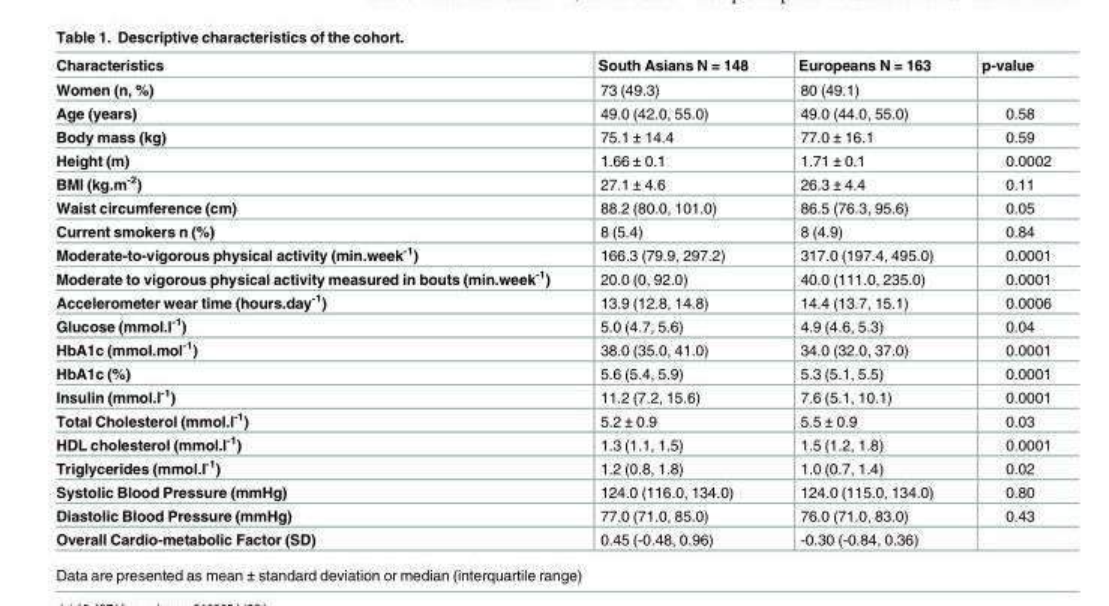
<table><thead><tr><td>Characteristics</td><td>South Asians N = 148</td><td>Europeans N = 163</td><td>p-value</td></tr></thead><tbody><tr><td>Women (n, %)</td><td>73 (49.3)</td><td>80 (49.1)</td><td></td></tr><tr><td>Age (years)</td><td>49.0 (42.0, 55.0)</td><td>49.0 (44.0, 55.0)</td><td>0.58</td></tr><tr><td>Body mass (kg)</td><td>75.1 ± 14.4</td><td>77.0 ± 16.1</td><td>0.59</td></tr><tr><td>Height (m)</td><td>1.66 ± 0.1</td><td>1.71 ± 0.1</td><td>0.0002</td></tr><tr><td>BMI (kg.m<sup>-2</sup>)</td><td>27.1 ± 4.6</td><td>26.3 ± 4.4</td><td>0.11</td></tr><tr><td>Waist circumference (cm)</td><td>88.2 (80.0, 101.0)</td><td>86.5 (76.3, 95.6)</td><td>0.05</td></tr><tr><td>Current smokers n (%)</td><td>8 (5.4)</td><td>8 (4.9)</td><td>0.84</td></tr><tr><td>Moderate-to-vigorous physical activity (min.week<sup>-1</sup>)</td><td>166.3 (79.9, 297.2)</td><td>317.0 (197.4, 495.0)</td><td>0.0001</td></tr><tr><td>Moderate to vigorous physical activity measured in bouts (min.week<sup>-1</sup>)</td><td>20.0 (0, 92.0)</td><td>40.0 (111.0, 235.0)</td><td>0.0001</td></tr><tr><td>Accelerometer wear time (hours.day<sup>-1</sup>)</td><td>13.9 (12.8, 14.8)</td><td>14.4 (13.7, 15.1)</td><td>0.0006</td></tr><tr><td>Glucose (mmol.l<sup>-1</sup>)</td><td>5.0 (4.7, 5.6)</td><td>4.9 (4.6, 5.3)</td><td>0.04</td></tr><tr><td>HbA1c (mmol.mol<sup>-1</sup>)</td><td>38.0 (35.0, 41.0)</td><td>34.0 (32.0, 37.0)</td><td>0.0001</td></tr><tr><td>HbA1c (%)</td><td>5.6 (5.4, 5.9)</td><td>5.3 (5.1, 5.5)</td><td>0.0001</td></tr><tr><td>Insulin (mmol.l<sup>-1</sup>)</td><td>11.2 (7.2, 15.6)</td><td>7.6 (5.1, 10.1)</td><td>0.0001</td></tr><tr><td>Total Cholesterol (mmol.l<sup>-1</sup>)</td><td>5.2 ± 0.9</td><td>5.5 ± 0.9</td><td>0.03</td></tr><tr><td>HDL cholesterol (mmol.l<sup>-1</sup>)</td><td>1.3 (1.1, 1.5)</td><td>1.5 (1.2, 1.8)</td><td>0.0001</td></tr><tr><td>Triglycerides (mmol.l<sup>-1</sup>)</td><td>1.2 (0.8, 1.8)</td><td>1.0 (0.7, 1.4)</td><td>0.02</td></tr><tr><td>Systolic Blood Pressure (mmHg)</td><td>124.0 (116.0, 134.0)</td><td>124.0 (115.0, 134.0)</td><td>0.80</td></tr><tr><td>Diastolic Blood Pressure (mmHg)</td><td>77.0 (71.0, 85.0)</td><td>76.0 (71.0, 83.0)</td><td>0.43</td></tr><tr><td>Overall Cardio-metabolic Factor (SD)</td><td>0.45 (-0.48, 0.96)</td><td>-0.30 (-0.84, 0.36)</td><td></td></tr></tbody></table>